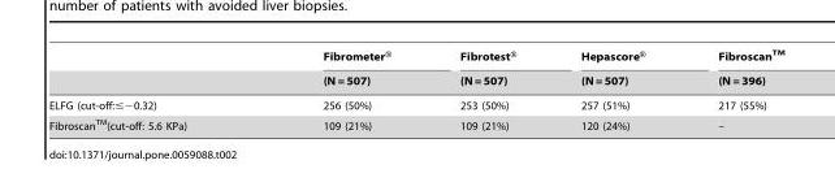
<table><thead><tr><td rowspan="2"></td><td rowspan="2">Fibrometer® (N = 507)</td><td rowspan="2">Fibrotest® (N = 507)</td><td rowspan="2">Hepascore® (N = 507)</td><td rowspan="2">Fibroscan<sup>TM</sup> (N = 396)</td></tr><tr></tr></thead><tbody><tr><td>ELFG (cut-off:≤−0.32)</td><td>256 (50%)</td><td>253 (50%)</td><td>257 (51%)</td><td>217 (55%)</td></tr><tr><td>FibroscanTM(cut-off: 5.6 KPa)</td><td>109 (21%)</td><td>109 (21%)</td><td>120 (24%)</td><td>–</td></tr></tbody></table>